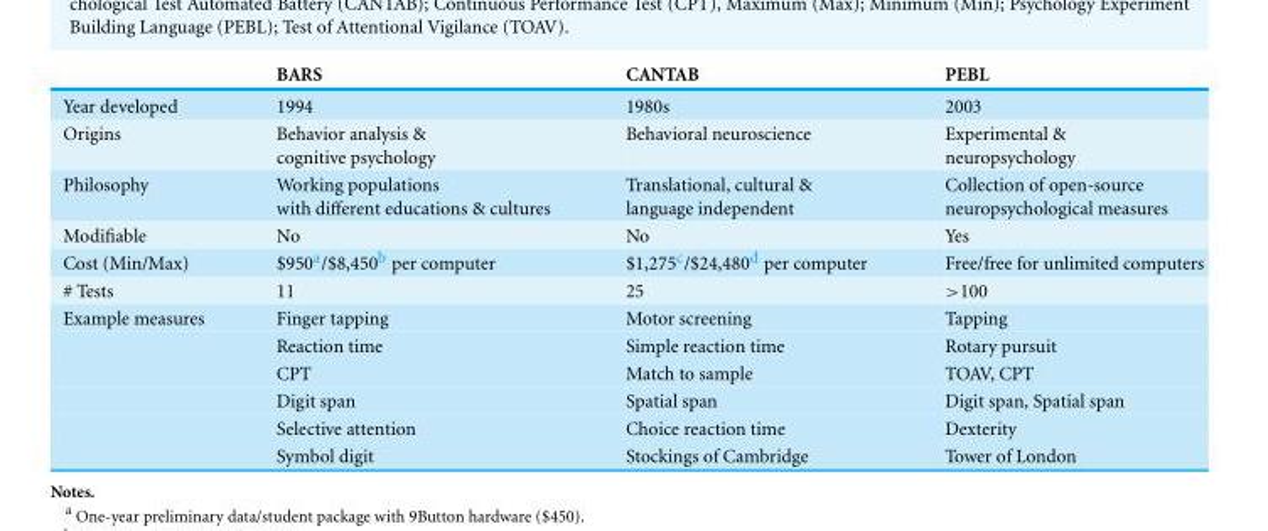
<table><thead><tr><td></td><td>BARS</td><td>CANTAB</td><td>PEBL</td></tr></thead><tbody><tr><td>Year developed</td><td>1994</td><td>1980s</td><td>2003</td></tr><tr><td>Origins</td><td>Behavior analysis &amp; cognitive psychology</td><td>Behavioral neuroscience</td><td>Experimental &amp; neuropsychology</td></tr><tr><td>Philosophy</td><td>Working populations with different educations &amp; cultures</td><td>Translational, cultural &amp; language independent</td><td>Collection of open-source neuropsychological measures</td></tr><tr><td>Modifiable</td><td>No</td><td>No</td><td>Yes</td></tr><tr><td>Cost (Min/Max)</td><td>$950<sup>a</sup>/$8,450<sup>b</sup> per computer</td><td>$1,275<sup>c</sup>/$24,480<sup>d</sup> per computer</td><td>Free/free for unlimited computers</td></tr><tr><td># Tests</td><td>11</td><td>25</td><td>&gt;100</td></tr><tr><td rowspan="6">Example measures</td><td>Finger tapping</td><td>Motor screening</td><td>Tapping</td></tr><tr><td>Reaction time</td><td>Simple reaction time</td><td>Rotary pursuit</td></tr><tr><td>CPT</td><td>Match to sample</td><td>TOAV, CPT</td></tr><tr><td>Digit span</td><td>Spatial span</td><td>Digit span, Spatial span</td></tr><tr><td>Selective attention</td><td>Choice reaction time</td><td>Dexterity</td></tr><tr><td>Symbol digit</td><td>Stockings of Cambridge</td><td>Tower of London</td></tr></tbody></table>